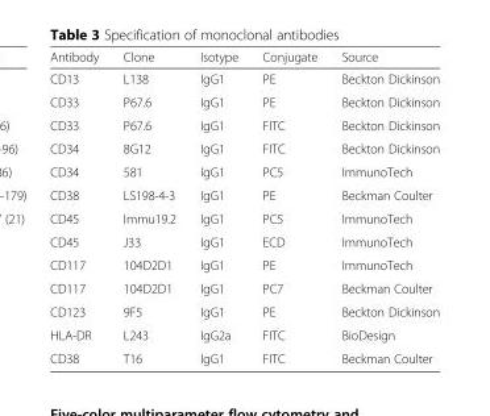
<table><thead><tr><td>Antibody</td><td>Clone</td><td>Isotype</td><td>Conjugate</td><td>Source</td></tr></thead><tbody><tr><td>CD13</td><td>L138</td><td>IgG1</td><td>PE</td><td>Beckton Dickinson</td></tr><tr><td>CD33</td><td>P67.6</td><td>IgG1</td><td>PE</td><td>Beckton Dickinson</td></tr><tr><td>CD33</td><td>P67.6</td><td>IgG1</td><td>FITC</td><td>Beckton Dickinson</td></tr><tr><td>CD34</td><td>8G12</td><td>IgG1</td><td>FITC</td><td>Beckton Dickinson</td></tr><tr><td>CD34</td><td>581</td><td>IgG1</td><td>PC5</td><td>ImmunoTech</td></tr><tr><td>CD38</td><td>LS198-4-3</td><td>IgG1</td><td>PE</td><td>Beckman Coulter</td></tr><tr><td>CD45</td><td>Immu19.2</td><td>IgG1</td><td>PC5</td><td>ImmunoTech</td></tr><tr><td>CD45</td><td>J33</td><td>IgG1</td><td>ECD</td><td>ImmunoTech</td></tr><tr><td>CD117</td><td>104D2D1</td><td>IgG1</td><td>PE</td><td>ImmunoTech</td></tr><tr><td>CD117</td><td>104D2D1</td><td>IgG1</td><td>PC7</td><td>Beckman Coulter</td></tr><tr><td>CD123</td><td>9F5</td><td>IgG1</td><td>PE</td><td>Beckton Dickinson</td></tr><tr><td>HLA-DR</td><td>L243</td><td>IgG2a</td><td>FITC</td><td>BioDesign</td></tr><tr><td>CD38</td><td>T16</td><td>IgG1</td><td>FITC</td><td>Beckman Coulter</td></tr></tbody></table>